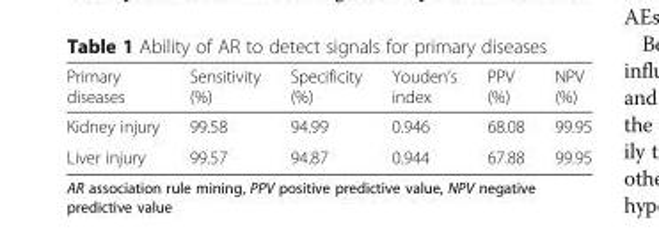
<table><thead><tr><td>Primary diseases</td><td>Sensitivity (%)</td><td>Specificity (%)</td><td>Youden’s index</td><td>PPV (%)</td><td>NPV (%)</td></tr></thead><tbody><tr><td>Kidney injury</td><td>99.58</td><td>94.99</td><td>0.946</td><td>68.08</td><td>99.95</td></tr><tr><td>Liver injury</td><td>99.57</td><td>94.87</td><td>0.944</td><td>67.88</td><td>99.95</td></tr></tbody></table>